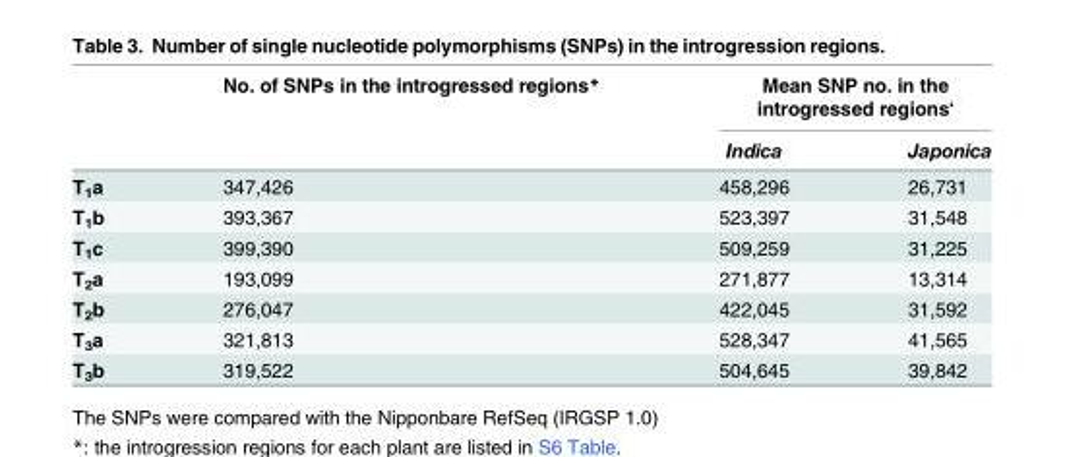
<table><thead><tr><td rowspan="2"></td><td rowspan="2">No. of SNPs in the introgressed regions*</td><td colspan="2">Mean SNP no. in the introgressed regions‘</td></tr><tr><td>Indica</td><td>Japonica</td></tr></thead><tbody><tr><td>T<sub>1</sub>a</td><td>347,426</td><td>458,296</td><td>26,731</td></tr><tr><td>T<sub>1</sub>b</td><td>393,367</td><td>523,397</td><td>31,548</td></tr><tr><td>T<sub>1</sub>c</td><td>399,390</td><td>509,259</td><td>31,225</td></tr><tr><td>T<sub>2</sub>a</td><td>193,099</td><td>271,877</td><td>13,314</td></tr><tr><td>T<sub>2</sub>b</td><td>276,047</td><td>422,045</td><td>31,592</td></tr><tr><td>T<sub>3</sub>a</td><td>321,813</td><td>528,347</td><td>41,565</td></tr><tr><td>T<sub>3</sub>b</td><td>319,522</td><td>504,645</td><td>39,842</td></tr></tbody></table>